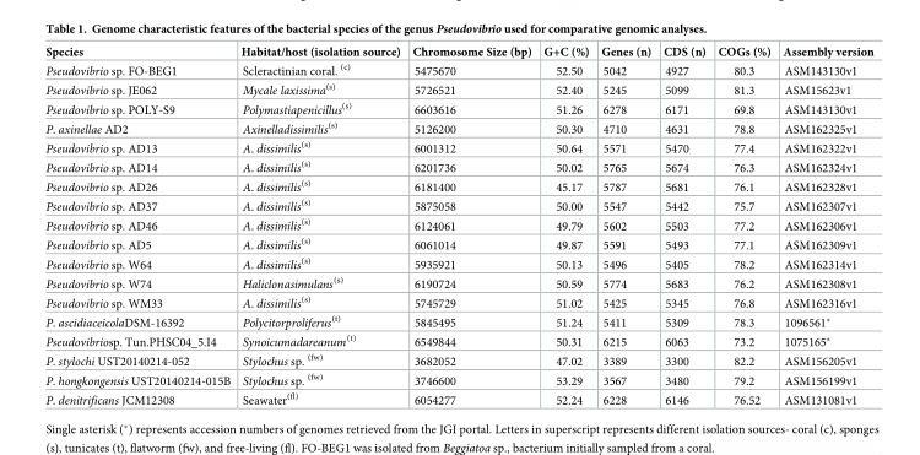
<table><thead><tr><td>Species</td><td>Habitat/host (isolation source)</td><td>Chromosome Size (bp)</td><td>G+C (%)</td><td>Genes (n)</td><td>CDS (n)</td><td>COGs (%)</td><td>Assembly version</td></tr></thead><tbody><tr><td>Pseudovibrio sp. FO-BEG1</td><td>Scleractinian coral. <sup>(c)</sup></td><td>5475670</td><td>52.50</td><td>5042</td><td>4927</td><td>80.3</td><td>ASM143130v1</td></tr><tr><td>Pseudovibrio sp. JE062</td><td>Mycale laxissima<sup>(s)</sup></td><td>5726521</td><td>52.40</td><td>5245</td><td>5099</td><td>81.3</td><td>ASM15623v1</td></tr><tr><td>Pseudovibrio sp. POLY-S9</td><td>Polymastiapenicillus<sup>(s)</sup></td><td>6603616</td><td>51.26</td><td>6278</td><td>6171</td><td>69.8</td><td>ASM143130v1</td></tr><tr><td>P. axinellae AD2</td><td>Axinelladissimilis<sup>(s)</sup></td><td>5126200</td><td>50.30</td><td>4710</td><td>4631</td><td>78.8</td><td>ASM162325v1</td></tr><tr><td>Pseudovibrio sp. AD13</td><td>A. dissimilis<sup>(s)</sup></td><td>6001312</td><td>50.64</td><td>5571</td><td>5470</td><td>77.4</td><td>ASM162322v1</td></tr><tr><td>Pseudovibrio sp. AD14</td><td>A. dissimilis<sup>(s)</sup></td><td>6201736</td><td>50.02</td><td>5765</td><td>5674</td><td>76.3</td><td>ASM162324v1</td></tr><tr><td>Pseudovibrio sp. AD26</td><td>A. dissimilis<sup>(s)</sup></td><td>6181400</td><td>45.17</td><td>5787</td><td>5681</td><td>76.1</td><td>ASM162328v1</td></tr><tr><td>Pseudovibrio sp. AD37</td><td>A. dissimilis<sup>(s)</sup></td><td>5875058</td><td>50.00</td><td>5547</td><td>5442</td><td>75.7</td><td>ASM162307v1</td></tr><tr><td>Pseudovibrio sp. AD46</td><td>A. dissimilis<sup>(s)</sup></td><td>6124061</td><td>49.79</td><td>5602</td><td>5503</td><td>77.2</td><td>ASM162306v1</td></tr><tr><td>Pseudovibrio sp. AD5</td><td>A. dissimilis<sup>(s)</sup></td><td>6061014</td><td>49.87</td><td>5591</td><td>5493</td><td>77.1</td><td>ASM162309v1</td></tr><tr><td>Pseudovibrio sp. W64</td><td>A. dissimilis<sup>(s)</sup></td><td>5935921</td><td>50.13</td><td>5496</td><td>5405</td><td>78.2</td><td>ASM162314v1</td></tr><tr><td>Pseudovibrio sp. W74</td><td>Haliclonasimulans<sup>(s)</sup></td><td>6190724</td><td>50.59</td><td>5774</td><td>5683</td><td>76.2</td><td>ASM162308v1</td></tr><tr><td>Pseudovibrio sp. WM33</td><td>A. dissimilis<sup>(s)</sup></td><td>5745729</td><td>51.02</td><td>5425</td><td>5345</td><td>76.8</td><td>ASM162316v1</td></tr><tr><td>P. ascidiaceicolaDSM-16392</td><td>Polycitorproliferus<sup>(t)</sup></td><td>5845495</td><td>51.24</td><td>5411</td><td>5309</td><td>78.3</td><td>1096561*</td></tr><tr><td>Pseudovibriosp. Tun.PHSC04_5.I4</td><td>Synoicumadareanum<sup>(t)</sup></td><td>6549844</td><td>50.31</td><td>6215</td><td>6063</td><td>73.2</td><td>1075165*</td></tr><tr><td>P. stylochi UST20140214-052</td><td>Stylochus sp. <sup>(fw)</sup></td><td>3682052</td><td>47.02</td><td>3389</td><td>3300</td><td>82.2</td><td>ASM156205v1</td></tr><tr><td>P. hongkongensis UST20140214-015B</td><td>Stylochus sp. <sup>(fw)</sup></td><td>3746600</td><td>53.29</td><td>3567</td><td>3480</td><td>79.2</td><td>ASM156199v1</td></tr><tr><td>P. denitrificans JCM12308</td><td>Seawater<sup>(fl)</sup></td><td>6054277</td><td>52.24</td><td>6228</td><td>6146</td><td>76.52</td><td>ASM131081v1</td></tr></tbody></table>